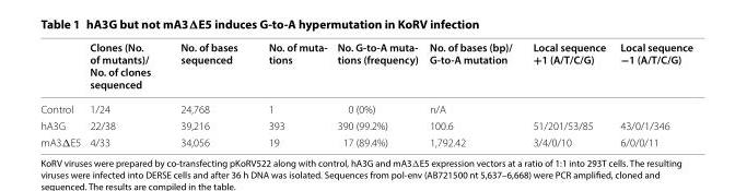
<table><thead><tr><td></td><td>Clones (No. of mutants)/ No. of clones sequenced</td><td>No. of bases sequenced</td><td>No. of muta- tions</td><td>No. G-to-A muta- tions (frequency)</td><td>No. of bases (bp)/ G-to-A mutation</td><td>Local sequence +1 (A/T/C/G)</td><td>Local sequence −1 (A/T/C/G)</td></tr></thead><tbody><tr><td>Control</td><td>1/24</td><td>24,768</td><td>1</td><td>0 (0%)</td><td>n/A</td><td></td><td></td></tr><tr><td>hA3G</td><td>22/38</td><td>39,216</td><td>393</td><td>390 (99.2%)</td><td>100.6</td><td>51/201/53/85</td><td>43/0/1/346</td></tr><tr><td>mA3∆E5</td><td>4/33</td><td>34,056</td><td>19</td><td>17 (89.4%)</td><td>1,792.42</td><td>3/4/0/10</td><td>6/0/0/11</td></tr></tbody></table>